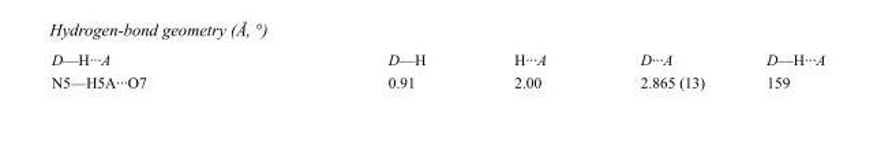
<table><tbody><tr><td>D—H···A</td><td>D—H</td><td>H···A</td><td>D···A</td><td>D—H···A</td></tr><tr><td>N5—H5A···O7</td><td>0.91</td><td>2.00</td><td>2.865 (13)</td><td>159</td></tr></tbody></table>